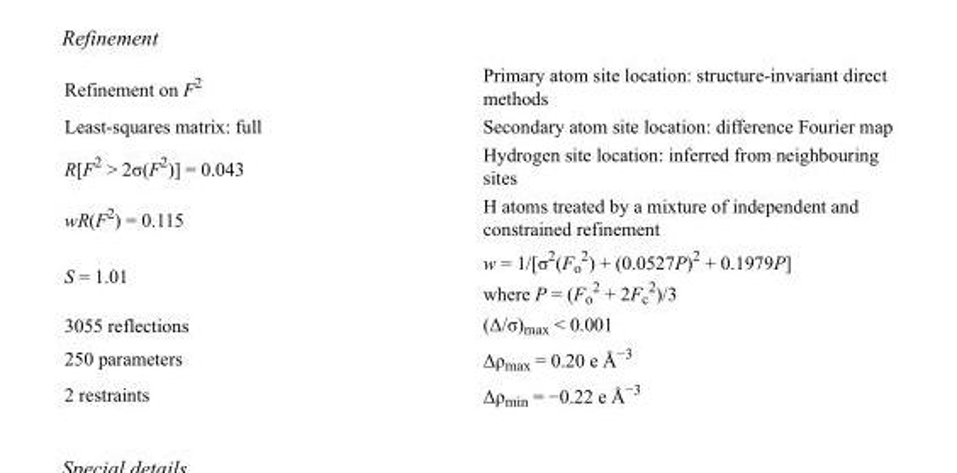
<table><tbody><tr><td>Refinement on F<sup>2</sup></td><td>Primary atom site location: structure-invariant direct methods</td></tr><tr><td>Least-squares matrix: full</td><td>Secondary atom site location: difference Fourier map</td></tr><tr><td>R[F<sup>2</sup> &gt; 2σ(F<sup>2</sup>)] = 0.043</td><td>Hydrogen site location: inferred from neighbouring sites</td></tr><tr><td>wR(F<sup>2</sup>) = 0.115</td><td>H atoms treated by a mixture of independent and constrained refinement</td></tr><tr><td>S = 1.01</td><td>w = 1/[σ<sup>2</sup>(F<sub>o</sub> <sup>2</sup>) + (0.0527P)<sup>2</sup> + 0.1979P] where P = (F<sub>o</sub> <sup>2</sup> + 2F<sub>c</sub> <sup>2</sup>)/3</td></tr><tr><td>3055 reflections</td><td>(Δ/σ)<sub>max</sub> &lt; 0.001</td></tr><tr><td>250 parameters</td><td>Δρ<sub>max</sub> = 0.20 e Å<sup>−3</sup></td></tr><tr><td>2 restraints</td><td>Δρ<sub>min</sub> = −0.22 e Å<sup>−3</sup></td></tr></tbody></table>